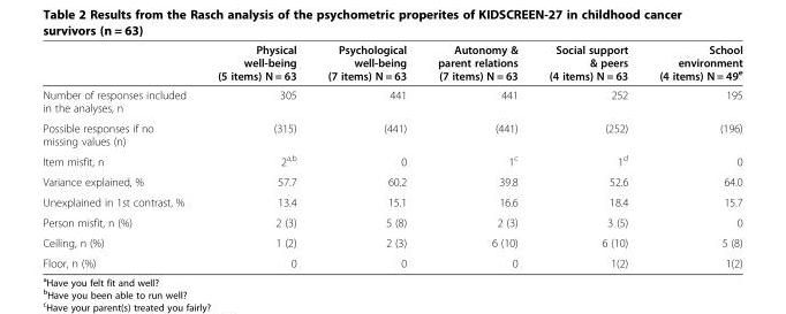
<table><thead><tr><td></td><td>Physical well-being (5 items) N = 63</td><td>Psychological well-being (7 items) N = 63</td><td>Autonomy &amp; parent relations (7 items) N = 63</td><td>Social support &amp; peers (4 items) N = 63</td><td>School environment (4 items) N = 49<sup>e</sup></td></tr></thead><tbody><tr><td>Number of responses included in the analyses, n</td><td>305</td><td>441</td><td>441</td><td>252</td><td>195</td></tr><tr><td>Possible responses if no missing values (n)</td><td>(315)</td><td>(441)</td><td>(441)</td><td>(252)</td><td>(196)</td></tr><tr><td>Item misfit, n</td><td>2<sup>a,b</sup></td><td>0</td><td>1<sup>c</sup></td><td>1<sup>d</sup></td><td>0</td></tr><tr><td>Variance explained, %</td><td>57.7</td><td>60.2</td><td>39.8</td><td>52.6</td><td>64.0</td></tr><tr><td>Unexplained in 1st contrast, %</td><td>13.4</td><td>15.1</td><td>16.6</td><td>18.4</td><td>15.7</td></tr><tr><td>Person misfit, n (%)</td><td>2 (3)</td><td>5 (8)</td><td>2 (3)</td><td>3 (5)</td><td>0</td></tr><tr><td>Ceiling, n (%)</td><td>1 (2)</td><td>2 (3)</td><td>6 (10)</td><td>6 (10)</td><td>5 (8)</td></tr><tr><td>Floor, n (%)</td><td>0</td><td>0</td><td>0</td><td>1(2)</td><td>1(2)</td></tr></tbody></table>